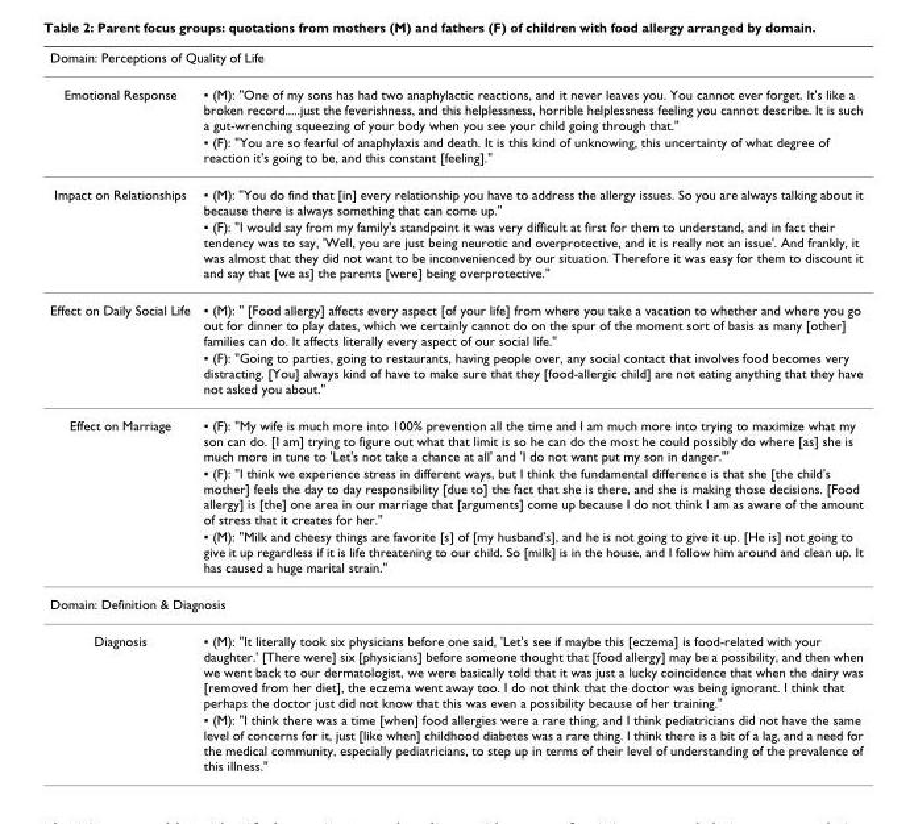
<table><thead><tr><td colspan="2">Domain: Perceptions of Quality of Life</td></tr><tr><td>Emotional Response</td><td>▪ (M): &quot;One of my sons has had two anaphylactic reactions, and it never leaves you. You cannot ever forget. It&#x27;s like a broken record.....just the feverishness, and this helplessness, horrible helplessness feeling you cannot describe. It is such a gut-wrenching squeezing of your body when you see your child going through that.&quot;</td></tr></thead><tbody><tr><td></td><td>▪ (F): &quot;You are so fearful of anaphylaxis and death. It is this kind of unknowing, this uncertainty of what degree of reaction it&#x27;s going to be, and this constant [feeling].&quot;</td></tr><tr><td rowspan="2">Impact on Relationships</td><td>▪ (M): &quot;You do find that [in] every relationship you have to address the allergy issues. So you are always talking about it because there is always something that can come up.&quot;</td></tr><tr><td>▪ (F): &quot;I would say from my family&#x27;s standpoint it was very difficult at first for them to understand, and in fact their tendency was to say, &#x27;Well, you are just being neurotic and overprotective, and it is really not an issue&#x27;. And frankly, it was almost that they did not want to be inconvenienced by our situation. Therefore it was easy for them to discount it and say that [we as] the parents [were] being overprotective.&quot;</td></tr><tr><td rowspan="2">Effect on Daily Social Life</td><td>▪ (M): &quot; [Food allergy] affects every aspect [of your life] from where you take a vacation to whether and where you go out for dinner to play dates, which we certainly cannot do on the spur of the moment sort of basis as many [other] families can do. It affects literally every aspect of our social life.&quot;</td></tr><tr><td>▪ (F): &quot;Going to parties, going to restaurants, having people over, any social contact that involves food becomes very distracting. [You] always kind of have to make sure that they [food-allergic child] are not eating anything that they have not asked you about.&quot;</td></tr><tr><td rowspan="3">Effect on Marriage</td><td>▪ (F): &quot;My wife is much more into 100% prevention all the time and I am much more into trying to maximize what my son can do. [I am] trying to figure out what that limit is so he can do the most he could possibly do where [as] she is much more in tune to &#x27;Let&#x27;s not take a chance at all&#x27; and &#x27;I do not want put my son in danger.&quot;&#x27;</td></tr><tr><td>▪ (F): &quot;I think we experience stress in different ways, but I think the fundamental difference is that she [the child&#x27;s mother] feels the day to day responsibility [due to] the fact that she is there, and she is making those decisions. [Food allergy] is [the] one area in our marriage that [arguments] come up because I do not think I am as aware of the amount of stress that it creates for her.&quot;</td></tr><tr><td>▪ (M): &quot;Milk and cheesy things are favorite [s] of [my husband&#x27;s], and he is not going to give it up. [He is] not going to give it up regardless if it is life threatening to our child. So [milk] is in the house, and I follow him around and clean up. It has caused a huge marital strain.&quot;</td></tr><tr><td colspan="2">Domain: Definition &amp; Diagnosis</td></tr><tr><td rowspan="2">Diagnosis</td><td>▪ (M): &quot;It literally took six physicians before one said, &#x27;Let&#x27;s see if maybe this [eczema] is food-related with your daughter.&#x27; [There were] six [physicians] before someone thought that [food allergy] may be a possibility, and then when we went back to our dermatologist, we were basically told that it was just a lucky coincidence that when the dairy was [removed from her diet], the eczema went away too. I do not think that the doctor was being ignorant. I think that perhaps the doctor just did not know that this was even a possibility because of her training.&quot;</td></tr><tr><td>▪ (M): &quot;I think there was a time [when] food allergies were a rare thing, and I think pediatricians did not have the same level of concerns for it, just [like when] childhood diabetes was a rare thing. I think there is a bit of a lag, and a need for the medical community, especially pediatricians, to step up in terms of their level of understanding of the prevalence of this illness.&quot;</td></tr></tbody></table>